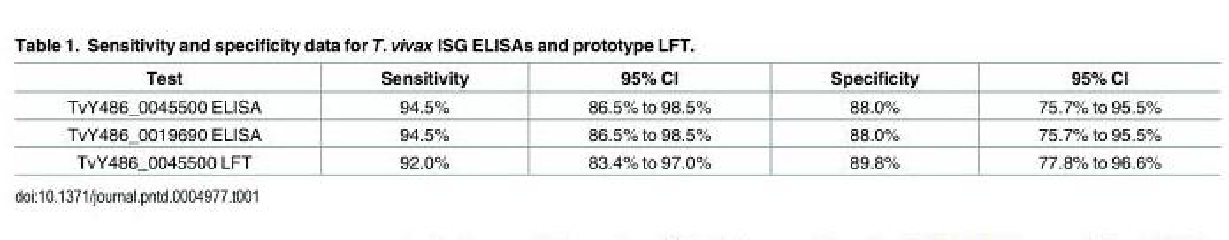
<table><thead><tr><td>Test</td><td>Sensitivity</td><td>95% CI</td><td>Specificity</td><td>95% CI</td></tr></thead><tbody><tr><td>TvY486_0045500 ELISA</td><td>94.5%</td><td>86.5% to 98.5%</td><td>88.0%</td><td>75.7% to 95.5%</td></tr><tr><td>TvY486_0019690 ELISA</td><td>94.5%</td><td>86.5% to 98.5%</td><td>88.0%</td><td>75.7% to 95.5%</td></tr><tr><td>TvY486_0045500 LFT</td><td>92.0%</td><td>83.4% to 97.0%</td><td>89.8%</td><td>77.8% to 96.6%</td></tr></tbody></table>